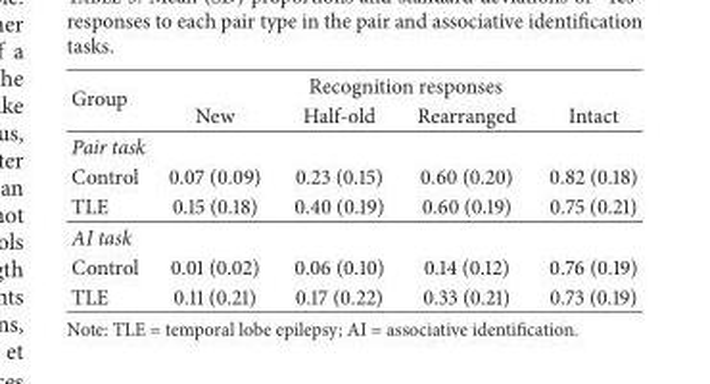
<table><thead><tr><td rowspan="2">Group</td><td colspan="4">Recognition responses</td></tr><tr><td>New</td><td>Half-old</td><td>Rearranged</td><td>Intact</td></tr></thead><tbody><tr><td colspan="5">Pair task</td></tr><tr><td>Control</td><td>0.07 (0.09)</td><td>0.23 (0.15)</td><td>0.60 (0.20)</td><td>0.82 (0.18)</td></tr><tr><td>TLE</td><td>0.15 (0.18)</td><td>0.40 (0.19)</td><td>0.60 (0.19)</td><td>0.75 (0.21)</td></tr><tr><td colspan="5">AI task</td></tr><tr><td>Control</td><td>0.01 (0.02)</td><td>0.06 (0.10)</td><td>0.14 (0.12)</td><td>0.76 (0.19)</td></tr><tr><td>TLE</td><td>0.11 (0.21)</td><td>0.17 (0.22)</td><td>0.33 (0.21)</td><td>0.73 (0.19)</td></tr></tbody></table>